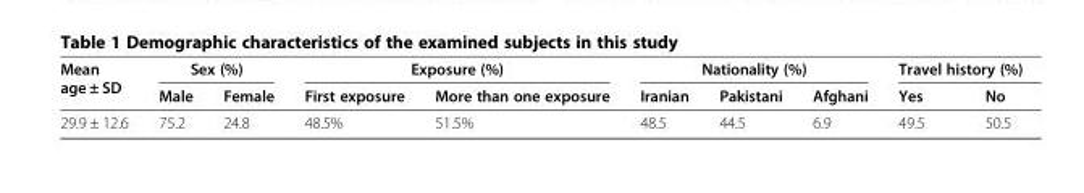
<table><thead><tr><td rowspan="2">Mean age ± SD</td><td colspan="2">Sex (%)</td><td colspan="2">Exposure (%)</td><td colspan="3">Nationality (%)</td><td colspan="2">Travel history (%)</td></tr><tr><td>Male</td><td>Female</td><td>First exposure</td><td>More than one exposure</td><td>Iranian</td><td>Pakistani</td><td>Afghani</td><td>Yes</td><td>No</td></tr></thead><tbody><tr><td>29.9 ± 12.6</td><td>75.2</td><td>24.8</td><td>48.5%</td><td>51.5%</td><td>48.5</td><td>44.5</td><td>6.9</td><td>49.5</td><td>50.5</td></tr></tbody></table>